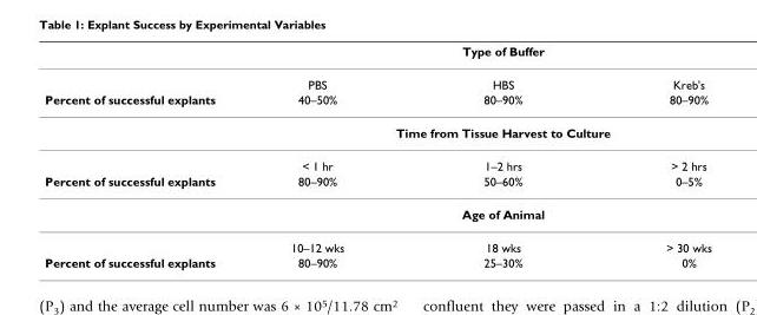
<table><thead><tr><td rowspan="2"></td><td colspan="3">Type of Buffer</td></tr><tr><td>PBS</td><td>HBS</td><td>Kreb&#x27;s</td></tr></thead><tbody><tr><td rowspan="3">Percent of successful explants</td><td>40–50%</td><td>80–90%</td><td>80–90%</td></tr><tr><td colspan="3">Time from Tissue Harvest to Culture</td></tr><tr><td>&lt; 1 hr</td><td>1–2 hrs</td><td>&gt; 2 hrs</td></tr><tr><td rowspan="3">Percent of successful explants</td><td>80–90%</td><td>50–60%</td><td>0–5%</td></tr><tr><td colspan="3">Age of Animal</td></tr><tr><td>10–12 wks</td><td>18 wks</td><td>&gt; 30 wks</td></tr><tr><td>Percent of successful explants</td><td>80–90%</td><td>25–30%</td><td>0%</td></tr></tbody></table>